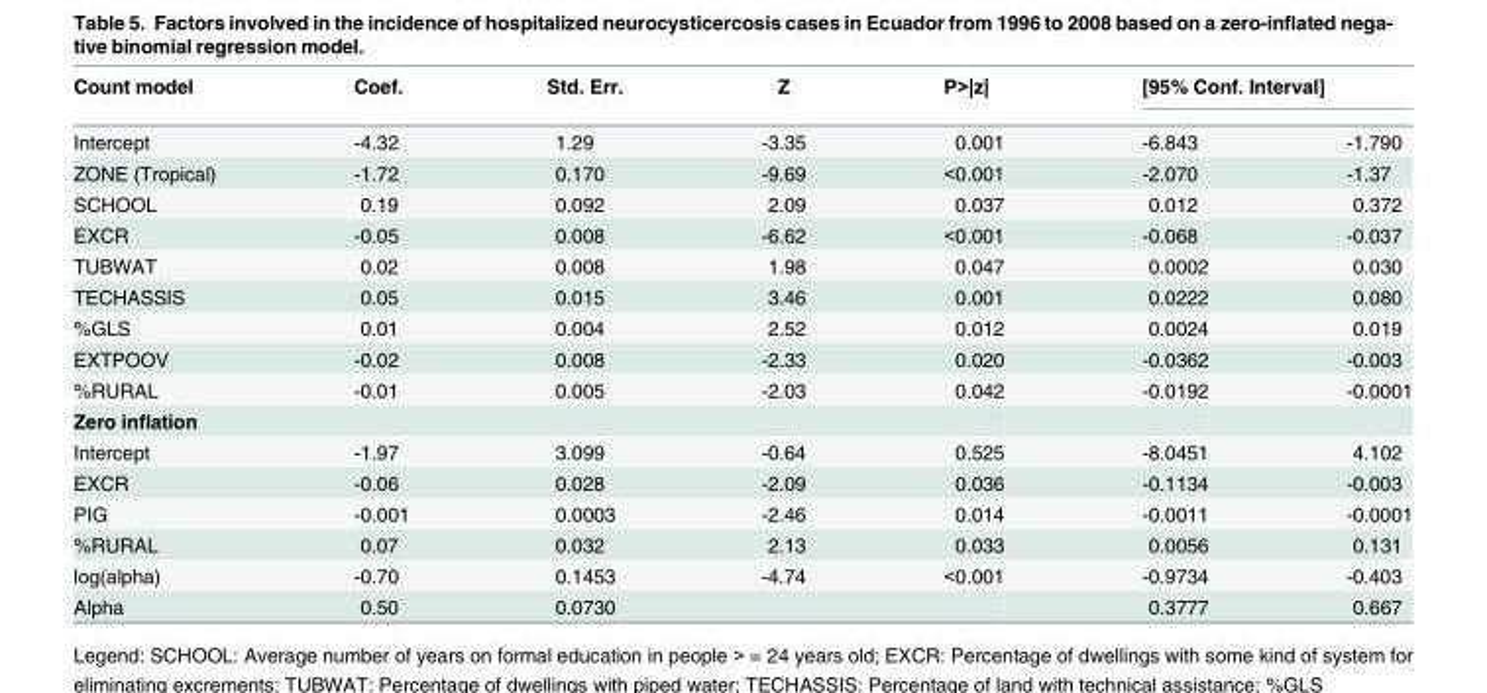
<table><thead><tr><td rowspan="2">Count model Intercept</td><td rowspan="2">Coef. -4.32</td><td rowspan="2">Std. Err. 1.29</td><td rowspan="2">Z -3.35</td><td rowspan="2">P&gt;|z| 0.001</td><td colspan="2">[95% Conf. Interval]</td></tr><tr><td>-6.843</td><td>-1.790</td></tr></thead><tbody><tr><td>ZONE (Tropical)</td><td>-1.72</td><td>0.170</td><td>-9.69</td><td>&lt;0.001</td><td>-2.070</td><td>-1.37</td></tr><tr><td>SCHOOL</td><td>0.19</td><td>0.092</td><td>2.09</td><td>0.037</td><td>0.012</td><td>0.372</td></tr><tr><td>EXCR</td><td>-0.05</td><td>0.008</td><td>-6.62</td><td>&lt;0.001</td><td>-0.068</td><td>-0.037</td></tr><tr><td>TUBWAT</td><td>0.02</td><td>0.008</td><td>1.98</td><td>0.047</td><td>0.0002</td><td>0.030</td></tr><tr><td>TECHASSIS</td><td>0.05</td><td>0.015</td><td>3.46</td><td>0.001</td><td>0.0222</td><td>0.080</td></tr><tr><td>%GLS</td><td>0.01</td><td>0.004</td><td>2.52</td><td>0.012</td><td>0.0024</td><td>0.019</td></tr><tr><td>EXTPOOV</td><td>-0.02</td><td>0.008</td><td>-2.33</td><td>0.020</td><td>-0.0362</td><td>-0.003</td></tr><tr><td>%RURAL</td><td>-0.01</td><td>0.005</td><td>-2.03</td><td>0.042</td><td>-0.0192</td><td>-0.0001</td></tr><tr><td colspan="7">Zero inflation</td></tr><tr><td>Intercept</td><td>-1.97</td><td>3.099</td><td>-0.64</td><td>0.525</td><td>-8.0451</td><td>4.102</td></tr><tr><td>EXCR</td><td>-0.06</td><td>0.028</td><td>-2.09</td><td>0.036</td><td>-0.1134</td><td>-0.003</td></tr><tr><td>PIG</td><td>-0.001</td><td>0.0003</td><td>-2.46</td><td>0.014</td><td>-0.0011</td><td>-0.0001</td></tr><tr><td>%RURAL</td><td>0.07</td><td>0.032</td><td>2.13</td><td>0.033</td><td>0.0056</td><td>0.131</td></tr><tr><td>log(alpha)</td><td>-0.70</td><td>0.1453</td><td>-4.74</td><td>&lt;0.001</td><td>-0.9734</td><td>-0.403</td></tr><tr><td>Alpha</td><td>0.50</td><td>0.0730</td><td></td><td></td><td>0.3777</td><td>0.667</td></tr></tbody></table>